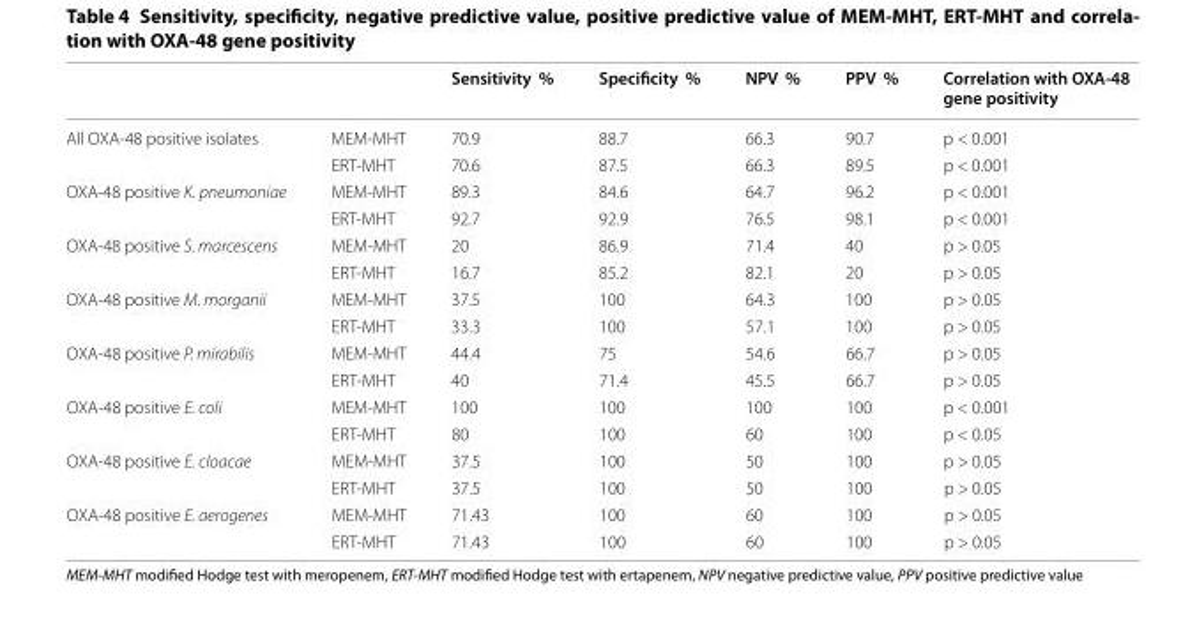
<table><thead><tr><td></td><td></td><td>Sensitivity %</td><td>Specificity %</td><td>NPV %</td><td>PPV %</td><td>Correlation with OXA-48 gene positivity</td></tr></thead><tbody><tr><td rowspan="2">All OXA-48 positive isolates</td><td>MEM-MHT</td><td>70.9</td><td>88.7</td><td>66.3</td><td>90.7</td><td>p &lt; 0.001</td></tr><tr><td>ERT-MHT</td><td>70.6</td><td>87.5</td><td>66.3</td><td>89.5</td><td>p &lt; 0.001</td></tr><tr><td rowspan="2">OXA-48 positive K. pneumoniae</td><td>MEM-MHT</td><td>89.3</td><td>84.6</td><td>64.7</td><td>96.2</td><td>p &lt; 0.001</td></tr><tr><td>ERT-MHT</td><td>92.7</td><td>92.9</td><td>76.5</td><td>98.1</td><td>p &lt; 0.001</td></tr><tr><td rowspan="2">OXA-48 positive S. marcescens</td><td>MEM-MHT</td><td>20</td><td>86.9</td><td>71.4</td><td>40</td><td>p &gt; 0.05</td></tr><tr><td>ERT-MHT</td><td>16.7</td><td>85.2</td><td>82.1</td><td>20</td><td>p &gt; 0.05</td></tr><tr><td rowspan="2">OXA-48 positive M. morganii</td><td>MEM-MHT</td><td>37.5</td><td>100</td><td>64.3</td><td>100</td><td>p &gt; 0.05</td></tr><tr><td>ERT-MHT</td><td>33.3</td><td>100</td><td>57.1</td><td>100</td><td>p &gt; 0.05</td></tr><tr><td rowspan="2">OXA-48 positive P. mirabilis</td><td>MEM-MHT</td><td>44.4</td><td>75</td><td>54.6</td><td>66.7</td><td>p &gt; 0.05</td></tr><tr><td>ERT-MHT</td><td>40</td><td>71.4</td><td>45.5</td><td>66.7</td><td>p &gt; 0.05</td></tr><tr><td rowspan="2">OXA-48 positive E. coli</td><td>MEM-MHT</td><td>100</td><td>100</td><td>100</td><td>100</td><td>p &lt; 0.001</td></tr><tr><td>ERT-MHT</td><td>80</td><td>100</td><td>60</td><td>100</td><td>p &lt; 0.05</td></tr><tr><td rowspan="2">OXA-48 positive E. cloacae</td><td>MEM-MHT</td><td>37.5</td><td>100</td><td>50</td><td>100</td><td>p &gt; 0.05</td></tr><tr><td>ERT-MHT</td><td>37.5</td><td>100</td><td>50</td><td>100</td><td>p &gt; 0.05</td></tr><tr><td rowspan="2">OXA-48 positive E. aerogenes</td><td>MEM-MHT</td><td>71.43</td><td>100</td><td>60</td><td>100</td><td>p &gt; 0.05</td></tr><tr><td>ERT-MHT</td><td>71.43</td><td>100</td><td>60</td><td>100</td><td>p &gt; 0.05</td></tr></tbody></table>